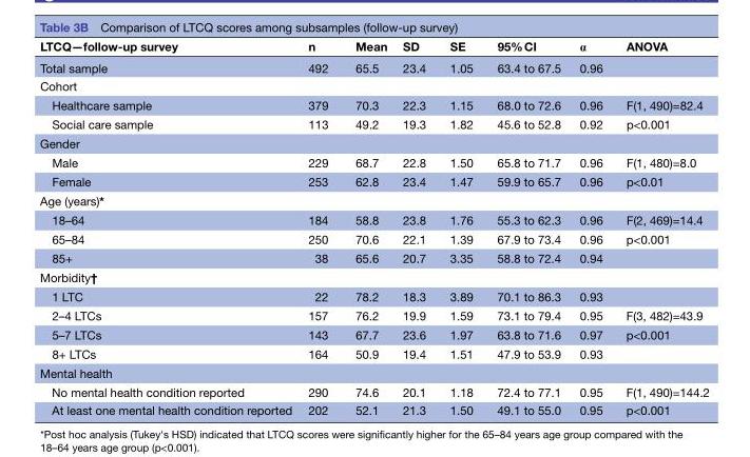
<table><thead><tr><td>LTCQ—follow-up survey</td><td>n</td><td>Mean</td><td>SD</td><td>SE</td><td>95% CI</td><td>α</td><td>ANOVA</td></tr></thead><tbody><tr><td>Total sample</td><td>492</td><td>65.5</td><td>23.4</td><td>1.05</td><td>63.4 to 67.5</td><td>0.96</td><td></td></tr><tr><td colspan="8">Cohort</td></tr><tr><td>Healthcare sample</td><td>379</td><td>70.3</td><td>22.3</td><td>1.15</td><td>68.0 to 72.6</td><td>0.96</td><td>F(1, 490)=82.4</td></tr><tr><td>Social care sample</td><td>113</td><td>49.2</td><td>19.3</td><td>1.82</td><td>45.6 to 52.8</td><td>0.92</td><td>p&lt;0.001</td></tr><tr><td colspan="8">Gender</td></tr><tr><td>Male</td><td>229</td><td>68.7</td><td>22.8</td><td>1.50</td><td>65.8 to 71.7</td><td>0.96</td><td>F(1, 480)=8.0</td></tr><tr><td>Female</td><td>253</td><td>62.8</td><td>23.4</td><td>1.47</td><td>59.9 to 65.7</td><td>0.96</td><td>p&lt;0.01</td></tr><tr><td colspan="8">Age (years)*</td></tr><tr><td>18–64</td><td>184</td><td>58.8</td><td>23.8</td><td>1.76</td><td>55.3 to 62.3</td><td>0.96</td><td>F(2, 469)=14.4</td></tr><tr><td>65–84</td><td>250</td><td>70.6</td><td>22.1</td><td>1.39</td><td>67.9 to 73.4</td><td>0.96</td><td>p&lt;0.001</td></tr><tr><td>85+</td><td>38</td><td>65.6</td><td>20.7</td><td>3.35</td><td>58.8 to 72.4</td><td>0.94</td><td></td></tr><tr><td colspan="8">Morbidity†</td></tr><tr><td>1 LTC</td><td>22</td><td>78.2</td><td>18.3</td><td>3.89</td><td>70.1 to 86.3</td><td>0.93</td><td></td></tr><tr><td>2–4 LTCs</td><td>157</td><td>76.2</td><td>19.9</td><td>1.59</td><td>73.1 to 79.4</td><td>0.95</td><td>F(3, 482)=43.9</td></tr><tr><td>5–7 LTCs</td><td>143</td><td>67.7</td><td>23.6</td><td>1.97</td><td>63.8 to 71.6</td><td>0.97</td><td>p&lt;0.001</td></tr><tr><td>8+ LTCs</td><td>164</td><td>50.9</td><td>19.4</td><td>1.51</td><td>47.9 to 53.9</td><td>0.93</td><td></td></tr><tr><td colspan="8">Mental health</td></tr><tr><td>No mental health condition reported</td><td>290</td><td>74.6</td><td>20.1</td><td>1.18</td><td>72.4 to 77.1</td><td>0.95</td><td>F(1, 490)=144.2</td></tr><tr><td>At least one mental health condition reported</td><td>202</td><td>52.1</td><td>21.3</td><td>1.50</td><td>49.1 to 55.0</td><td>0.95</td><td>p&lt;0.001</td></tr></tbody></table>